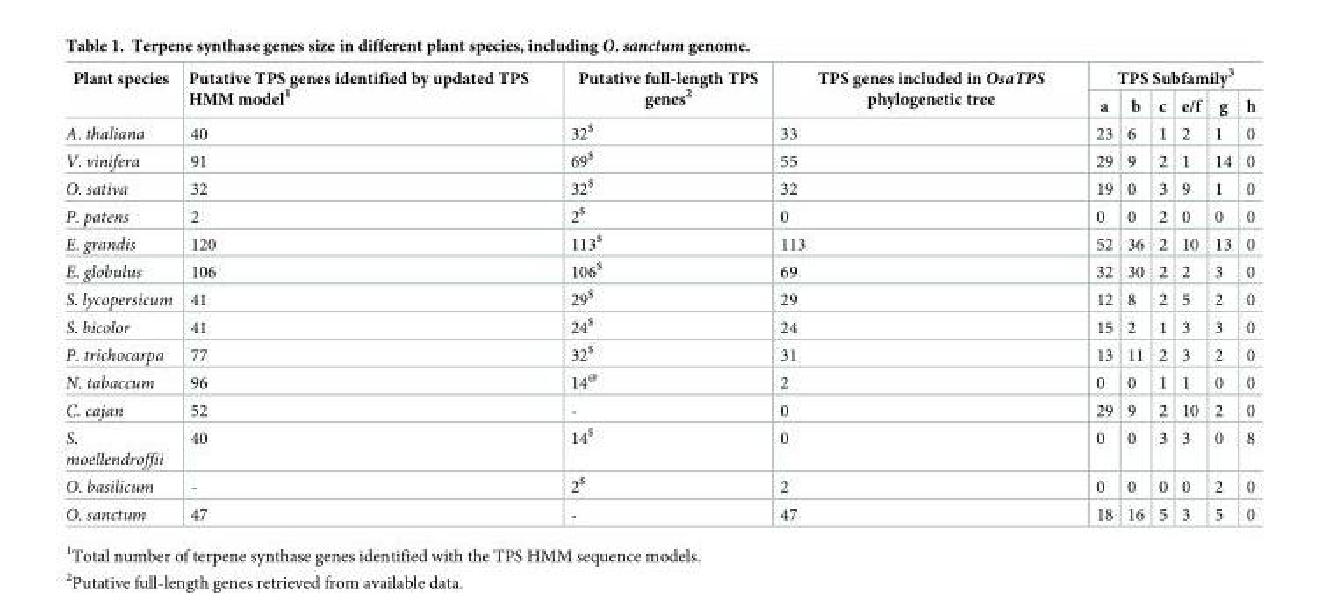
<table><thead><tr><td rowspan="2">Plant species</td><td rowspan="2">Putative TPS genes identified by updated TPS HMM model<sup>1</sup></td><td rowspan="2">Putative full-length TPS genes<sup>2</sup></td><td rowspan="2">TPS genes included in OsaTPS phylogenetic tree</td><td colspan="6">TPS Subfamily<sup>3</sup></td></tr><tr><td>a</td><td>b</td><td>c</td><td>e/f</td><td>g</td><td>h</td></tr></thead><tbody><tr><td>A. thaliana</td><td>40</td><td>32<sup>$</sup></td><td>33</td><td>23</td><td>6</td><td>1</td><td>2</td><td>1</td><td>0</td></tr><tr><td>V. vinifera</td><td>91</td><td>69<sup>$</sup></td><td>55</td><td>29</td><td>9</td><td>2</td><td>1</td><td>14</td><td>0</td></tr><tr><td>O. sativa</td><td>32</td><td>32<sup>$</sup></td><td>32</td><td>19</td><td>0</td><td>3</td><td>9</td><td>1</td><td>0</td></tr><tr><td>P. patens</td><td>2</td><td>2<sup>$</sup></td><td>0</td><td>0</td><td>0</td><td>2</td><td>0</td><td>0</td><td>0</td></tr><tr><td>E. grandis</td><td>120</td><td>113<sup>$</sup></td><td>113</td><td>52</td><td>36</td><td>2</td><td>10</td><td>13</td><td>0</td></tr><tr><td>E. globulus</td><td>106</td><td>106<sup>$</sup></td><td>69</td><td>32</td><td>30</td><td>2</td><td>2</td><td>3</td><td>0</td></tr><tr><td>S. lycopersicum</td><td>41</td><td>29<sup>$</sup></td><td>29</td><td>12</td><td>8</td><td>2</td><td>5</td><td>2</td><td>0</td></tr><tr><td>S. bicolor</td><td>41</td><td>24<sup>$</sup></td><td>24</td><td>15</td><td>2</td><td>1</td><td>3</td><td>3</td><td>0</td></tr><tr><td>P. trichocarpa</td><td>77</td><td>32<sup>$</sup></td><td>31</td><td>13</td><td>11</td><td>2</td><td>3</td><td>2</td><td>0</td></tr><tr><td>N. tabaccum</td><td>96</td><td>14<sup>@</sup></td><td>2</td><td>0</td><td>0</td><td>1</td><td>1</td><td>0</td><td>0</td></tr><tr><td>C. cajan</td><td>52</td><td>-</td><td>0</td><td>29</td><td>9</td><td>2</td><td>10</td><td>2</td><td>0</td></tr><tr><td>S. moellendroffii</td><td>40</td><td>14<sup>$</sup></td><td>0</td><td>0</td><td>0</td><td>3</td><td>3</td><td>0</td><td>8</td></tr><tr><td>O. basilicum</td><td>-</td><td>2<sup>$</sup></td><td>2</td><td>0</td><td>0</td><td>0</td><td>0</td><td>2</td><td>0</td></tr><tr><td>O. sanctum</td><td>47</td><td>-</td><td>47</td><td>18</td><td>16</td><td>5</td><td>3</td><td>5</td><td>0</td></tr></tbody></table>